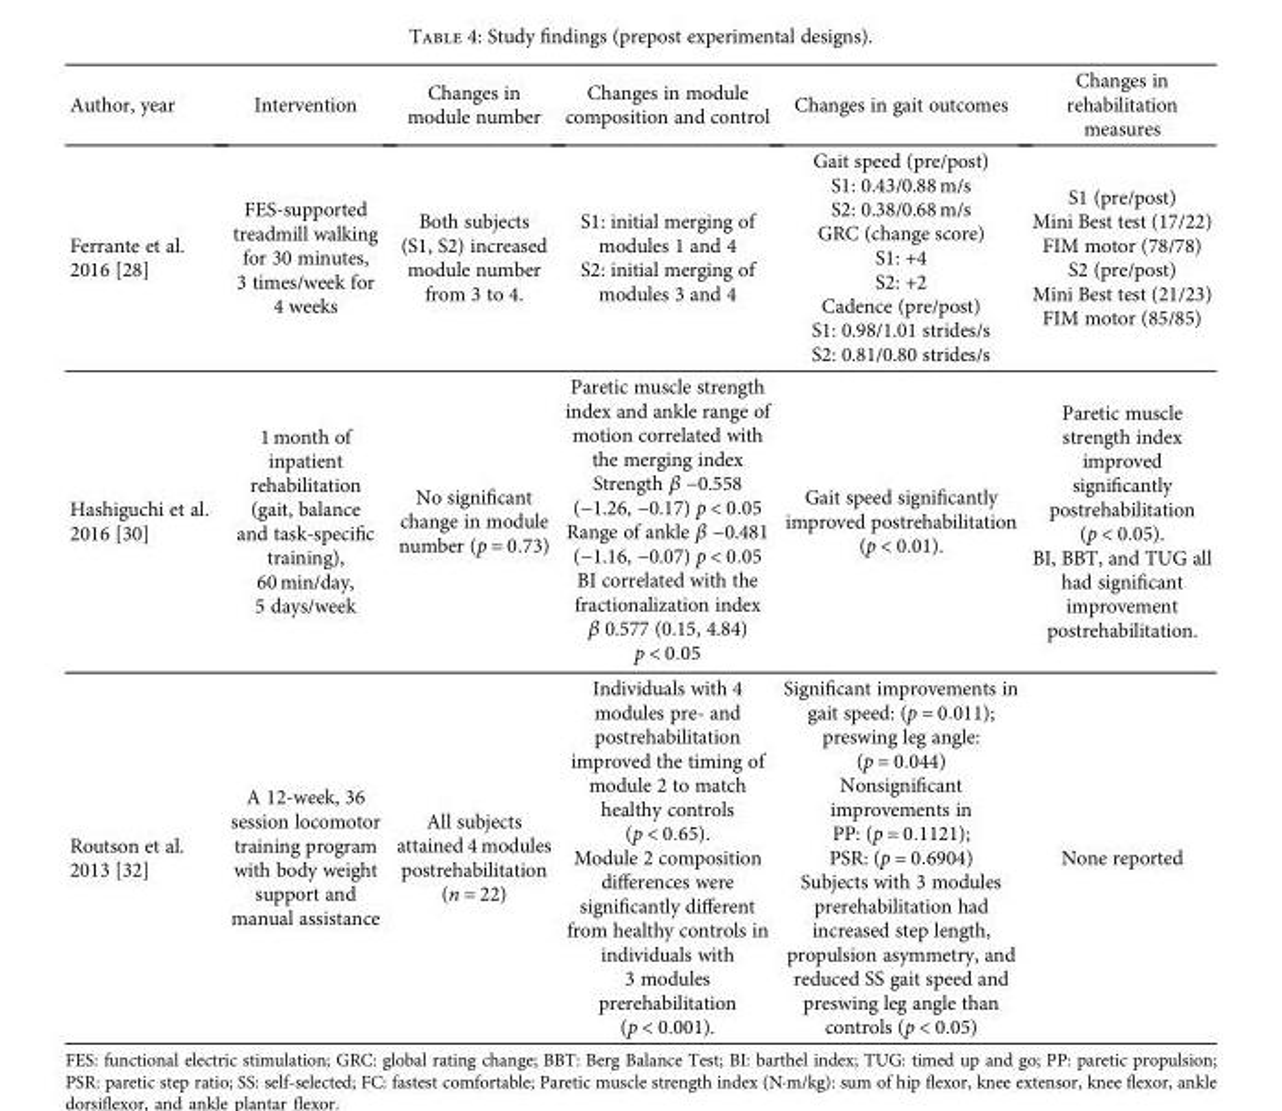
<table><thead><tr><td>Author, year</td><td>Intervention</td><td>Changes in module number</td><td>Changes in module composition and control</td><td>Changes in gait outcomes</td><td>Changes in rehabilitation measures</td></tr></thead><tbody><tr><td>Ferrante et al. 2016 [28]</td><td>FES-supported treadmill walking for 30 minutes, 3 times/week for 4 weeks</td><td>Both subjects (S1, S2) increased module number from 3 to 4.</td><td>S1: initial merging of modules 1 and 4 S2: initial merging of modules 3 and 4</td><td>Gait speed (pre/post) S1: 0.43/0.88 m/s S2: 0.38/0.68 m/s GRC (change score) S1: +4 S2: +2 Cadence (pre/post) S1: 0.98/1.01 strides/s S2: 0.81/0.80 strides/s</td><td>S1 (pre/post) Mini Best test (17/22) FIM motor (78/78) S2 (pre/post) Mini Best test (21/23) FIM motor (85/85)</td></tr><tr><td>Hashiguchi et al. 2016 [30]</td><td>1 month of inpatient rehabilitation (gait, balance and task-specific training), 60 min/day, 5 days/week</td><td>No significant change in module number (p = 0 73)</td><td>Paretic muscle strength index and ankle range of motion correlated with the merging index Strength β −0.558 (−1.26, −0.17) p &lt; 0 05 Range of ankle β −0.481 (−1.16, −0.07) p &lt; 0 05 BI correlated with the fractionalization index β 0.577 (0.15, 4.84) p &lt; 0 05</td><td>Gait speed significantly improved postrehabilitation (p &lt; 0 01).</td><td>Paretic muscle strength index improved significantly postrehabilitation (p &lt; 0 05). BI, BBT, and TUG all had significant improvement postrehabilitation.</td></tr><tr><td>Routson et al. 2013 [32]</td><td>A 12-week, 36 session locomotor training program with body weight support and manual assistance</td><td>All subjects attained 4 modules postrehabilitation (n = 22)</td><td>Individuals with 4 modules pre- and postrehabilitation improved the timing of module 2 to match healthy controls (p &lt; 0 65). Module 2 composition differences were significantly different from healthy controls in individuals with 3 modules prerehabilitation (p &lt; 0 001).</td><td>Significant improvements in gait speed: (p = 0 011); preswing leg angle: (p = 0 044) Nonsignificant improvements in PP: (p = 0 1121); PSR: (p = 0 6904) Subjects with 3 modules prerehabilitation had increased step length, propulsion asymmetry, and reduced SS gait speed and preswing leg angle than controls (p &lt; 0 05)</td><td>None reported</td></tr></tbody></table>